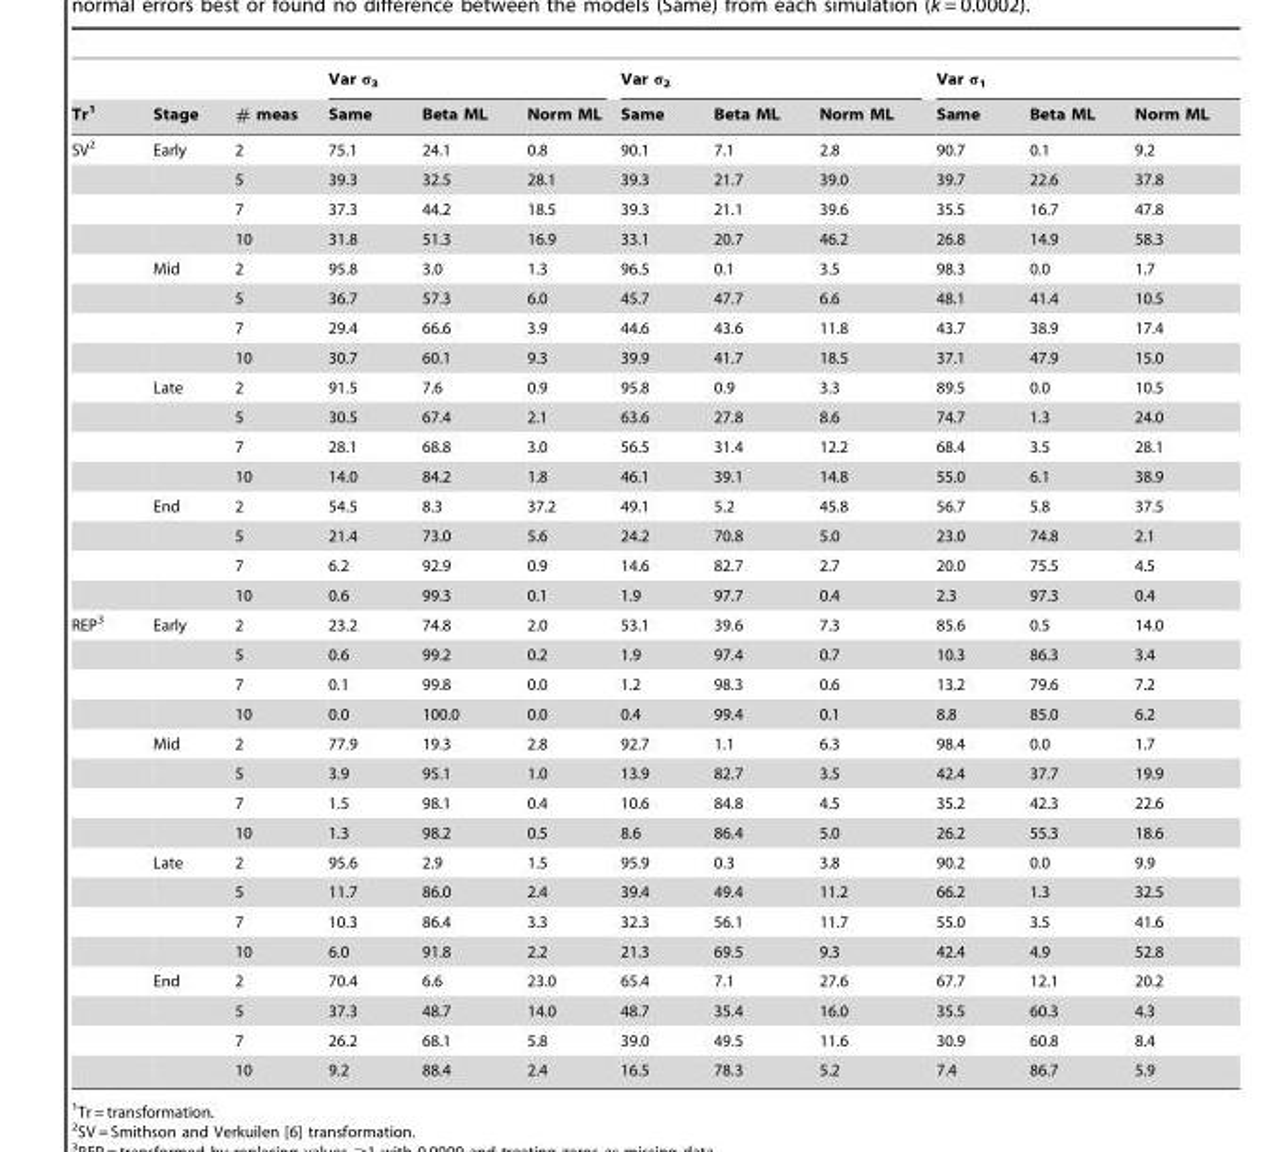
<table><thead><tr><td rowspan="2">Tr<sup>1</sup></td><td rowspan="2">Stage</td><td rowspan="2"># meas</td><td colspan="3">Var σ<sub>3</sub></td><td colspan="3">Var σ<sub>2</sub></td><td colspan="3">Var σ<sub>1</sub></td></tr><tr><td>Same</td><td>Beta ML</td><td>Norm ML</td><td>Same</td><td>Beta ML</td><td>Norm ML</td><td>Same</td><td>Beta ML</td><td>Norm ML</td></tr></thead><tbody><tr><td rowspan="16">SV<sup>2</sup></td><td>Early</td><td>2</td><td>75.1</td><td>24.1</td><td>0.8</td><td>90.1</td><td>7.1</td><td>2.8</td><td>90.7</td><td>0.1</td><td>9.2</td></tr><tr><td></td><td>5</td><td>39.3</td><td>32.5</td><td>28.1</td><td>39.3</td><td>21.7</td><td>39.0</td><td>39.7</td><td>22.6</td><td>37.8</td></tr><tr><td></td><td>7</td><td>37.3</td><td>44.2</td><td>18.5</td><td>39.3</td><td>21.1</td><td>39.6</td><td>35.5</td><td>16.7</td><td>47.8</td></tr><tr><td></td><td>10</td><td>31.8</td><td>51.3</td><td>16.9</td><td>33.1</td><td>20.7</td><td>46.2</td><td>26.8</td><td>14.9</td><td>58.3</td></tr><tr><td>Mid</td><td>2</td><td>95.8</td><td>3.0</td><td>1.3</td><td>96.5</td><td>0.1</td><td>3.5</td><td>98.3</td><td>0.0</td><td>1.7</td></tr><tr><td></td><td>5</td><td>36.7</td><td>57.3</td><td>6.0</td><td>45.7</td><td>47.7</td><td>6.6</td><td>48.1</td><td>41.4</td><td>10.5</td></tr><tr><td></td><td>7</td><td>29.4</td><td>66.6</td><td>3.9</td><td>44.6</td><td>43.6</td><td>11.8</td><td>43.7</td><td>38.9</td><td>17.4</td></tr><tr><td></td><td>10</td><td>30.7</td><td>60.1</td><td>9.3</td><td>39.9</td><td>41.7</td><td>18.5</td><td>37.1</td><td>47.9</td><td>15.0</td></tr><tr><td>Late</td><td>2</td><td>91.5</td><td>7.6</td><td>0.9</td><td>95.8</td><td>0.9</td><td>3.3</td><td>89.5</td><td>0.0</td><td>10.5</td></tr><tr><td></td><td>5</td><td>30.5</td><td>67.4</td><td>2.1</td><td>63.6</td><td>27.8</td><td>8.6</td><td>74.7</td><td>1.3</td><td>24.0</td></tr><tr><td></td><td>7</td><td>28.1</td><td>68.8</td><td>3.0</td><td>56.5</td><td>31.4</td><td>12.2</td><td>68.4</td><td>3.5</td><td>28.1</td></tr><tr><td></td><td>10</td><td>14.0</td><td>84.2</td><td>1.8</td><td>46.1</td><td>39.1</td><td>14.8</td><td>55.0</td><td>6.1</td><td>38.9</td></tr><tr><td>End</td><td>2</td><td>54.5</td><td>8.3</td><td>37.2</td><td>49.1</td><td>5.2</td><td>45.8</td><td>56.7</td><td>5.8</td><td>37.5</td></tr><tr><td></td><td>5</td><td>21.4</td><td>73.0</td><td>5.6</td><td>24.2</td><td>70.8</td><td>5.0</td><td>23.0</td><td>74.8</td><td>2.1</td></tr><tr><td></td><td>7</td><td>6.2</td><td>92.9</td><td>0.9</td><td>14.6</td><td>82.7</td><td>2.7</td><td>20.0</td><td>75.5</td><td>4.5</td></tr><tr><td></td><td>10</td><td>0.6</td><td>99.3</td><td>0.1</td><td>1.9</td><td>97.7</td><td>0.4</td><td>2.3</td><td>97.3</td><td>0.4</td></tr><tr><td rowspan="16">REP<sup>3</sup></td><td>Early</td><td>2</td><td>23.2</td><td>74.8</td><td>2.0</td><td>53.1</td><td>39.6</td><td>7.3</td><td>85.6</td><td>0.5</td><td>14.0</td></tr><tr><td></td><td>5</td><td>0.6</td><td>99.2</td><td>0.2</td><td>1.9</td><td>97.4</td><td>0.7</td><td>10.3</td><td>86.3</td><td>3.4</td></tr><tr><td></td><td>7</td><td>0.1</td><td>99.8</td><td>0.0</td><td>1.2</td><td>98.3</td><td>0.6</td><td>13.2</td><td>79.6</td><td>7.2</td></tr><tr><td></td><td>10</td><td>0.0</td><td>100.0</td><td>0.0</td><td>0.4</td><td>99.4</td><td>0.1</td><td>8.8</td><td>85.0</td><td>6.2</td></tr><tr><td>Mid</td><td>2</td><td>77.9</td><td>19.3</td><td>2.8</td><td>92.7</td><td>1.1</td><td>6.3</td><td>98.4</td><td>0.0</td><td>1.7</td></tr><tr><td></td><td>5</td><td>3.9</td><td>95.1</td><td>1.0</td><td>13.9</td><td>82.7</td><td>3.5</td><td>42.4</td><td>37.7</td><td>19.9</td></tr><tr><td></td><td>7</td><td>1.5</td><td>98.1</td><td>0.4</td><td>10.6</td><td>84.8</td><td>4.5</td><td>35.2</td><td>42.3</td><td>22.6</td></tr><tr><td></td><td>10</td><td>1.3</td><td>98.2</td><td>0.5</td><td>8.6</td><td>86.4</td><td>5.0</td><td>26.2</td><td>55.3</td><td>18.6</td></tr><tr><td>Late</td><td>2</td><td>95.6</td><td>2.9</td><td>1.5</td><td>95.9</td><td>0.3</td><td>3.8</td><td>90.2</td><td>0.0</td><td>9.9</td></tr><tr><td></td><td>5</td><td>11.7</td><td>86.0</td><td>2.4</td><td>39.4</td><td>49.4</td><td>11.2</td><td>66.2</td><td>1.3</td><td>32.5</td></tr><tr><td></td><td>7</td><td>10.3</td><td>86.4</td><td>3.3</td><td>32.3</td><td>56.1</td><td>11.7</td><td>55.0</td><td>3.5</td><td>41.6</td></tr><tr><td></td><td>10</td><td>6.0</td><td>91.8</td><td>2.2</td><td>21.3</td><td>69.5</td><td>9.3</td><td>42.4</td><td>4.9</td><td>52.8</td></tr><tr><td>End</td><td>2</td><td>70.4</td><td>6.6</td><td>23.0</td><td>65.4</td><td>7.1</td><td>27.6</td><td>67.7</td><td>12.1</td><td>20.2</td></tr><tr><td></td><td>5</td><td>37.3</td><td>48.7</td><td>14.0</td><td>48.7</td><td>35.4</td><td>16.0</td><td>35.5</td><td>60.3</td><td>4.3</td></tr><tr><td></td><td>7</td><td>26.2</td><td>68.1</td><td>5.8</td><td>39.0</td><td>49.5</td><td>11.6</td><td>30.9</td><td>60.8</td><td>8.4</td></tr><tr><td></td><td>10</td><td>9.2</td><td>88.4</td><td>2.4</td><td>16.5</td><td>78.3</td><td>5.2</td><td>7.4</td><td>86.7</td><td>5.9</td></tr></tbody></table>